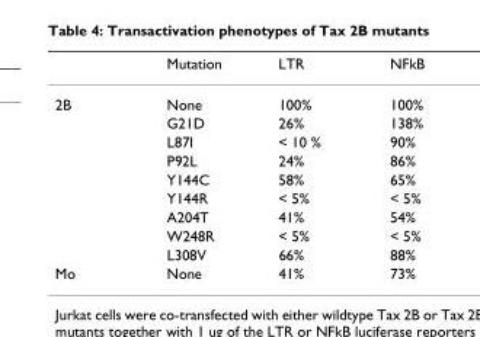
<table><thead><tr><td></td><td>Mutation</td><td>LTR</td><td>NFkB</td></tr></thead><tbody><tr><td rowspan="9">2B</td><td>None</td><td>100%</td><td>100%</td></tr><tr><td>G21D</td><td>26%</td><td>138%</td></tr><tr><td>L87I</td><td>&lt; 10 %</td><td>90%</td></tr><tr><td>P92L</td><td>24%</td><td>86%</td></tr><tr><td>Y144C</td><td>58%</td><td>65%</td></tr><tr><td>Y144R</td><td>&lt; 5%</td><td>&lt; 5%</td></tr><tr><td>A204T</td><td>41%</td><td>54%</td></tr><tr><td>W248R</td><td>&lt; 5%</td><td>&lt; 5%</td></tr><tr><td>L308V</td><td>66%</td><td>88%</td></tr><tr><td>Mo</td><td>None</td><td>41%</td><td>73%</td></tr></tbody></table>